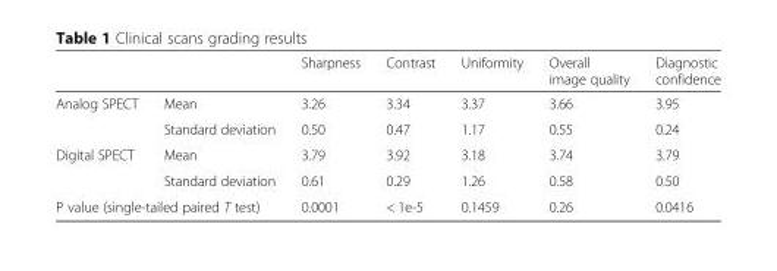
<table><thead><tr><td></td><td></td><td>Sharpness</td><td>Contrast</td><td>Uniformity</td><td>Overall image quality</td><td>Diagnostic confidence</td></tr></thead><tbody><tr><td rowspan="2">Analog SPECT</td><td>Mean</td><td>3.26</td><td>3.34</td><td>3.37</td><td>3.66</td><td>3.95</td></tr><tr><td>Standard deviation</td><td>0.50</td><td>0.47</td><td>1.17</td><td>0.55</td><td>0.24</td></tr><tr><td rowspan="2">Digital SPECT</td><td>Mean</td><td>3.79</td><td>3.92</td><td>3.18</td><td>3.74</td><td>3.79</td></tr><tr><td>Standard deviation</td><td>0.61</td><td>0.29</td><td>1.26</td><td>0.58</td><td>0.50</td></tr><tr><td colspan="2">P value (single-tailed paired T test)</td><td>0.0001</td><td>&lt; 1e-5</td><td>0.1459</td><td>0.26</td><td>0.0416</td></tr></tbody></table>